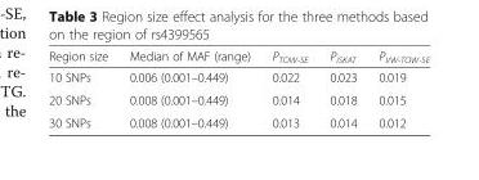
<table><thead><tr><td>Region size</td><td>Median of MAF (range)</td><td>P<sub>TOW-SE</sub></td><td>P<sub>iSKAT</sub></td><td>P<sub>VW-TOW-SE</sub></td></tr></thead><tbody><tr><td>10 SNPs</td><td>0.006 (0.001–0.449)</td><td>0.022</td><td>0.023</td><td>0.019</td></tr><tr><td>20 SNPs</td><td>0.008 (0.001–0.449)</td><td>0.014</td><td>0.018</td><td>0.015</td></tr><tr><td>30 SNPs</td><td>0.008 (0.001–0.449)</td><td>0.013</td><td>0.014</td><td>0.012</td></tr></tbody></table>